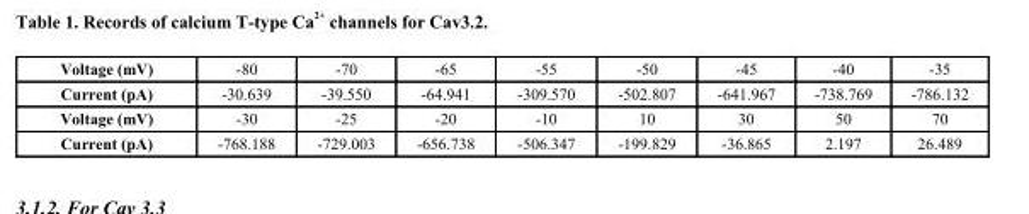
<table><tbody><tr><td>Voltage (mV)</td><td>-80</td><td>-70</td><td>-65</td><td>-55</td><td>-50</td><td>-45</td><td>-40</td><td>-35</td></tr><tr><td>Current (pA)</td><td>-30.639</td><td>-39.550</td><td>-64.941</td><td>-309.570</td><td>-502.807</td><td>-641.967</td><td>-738.769</td><td>-786.132</td></tr><tr><td>Voltage (mV)</td><td>-30</td><td>-25</td><td>-20</td><td>-10</td><td>10</td><td>30</td><td>50</td><td>70</td></tr><tr><td>Current (pA)</td><td>-768.188</td><td>-729.003</td><td>-656.738</td><td>-506.347</td><td>-199.829</td><td>-36.865</td><td>2.197</td><td>26.489</td></tr></tbody></table>